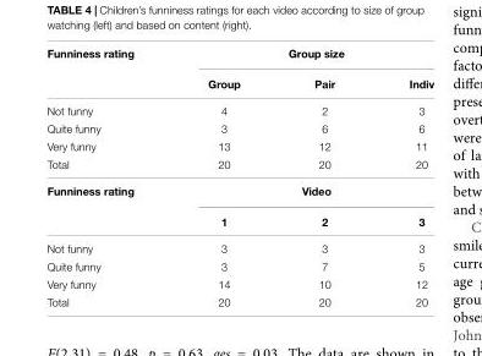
<table><thead><tr><td rowspan="2">Funniness rating</td><td colspan="3">Group size</td></tr><tr><td>Group</td><td>Pair</td><td>Indiv</td></tr></thead><tbody><tr><td>Not funny</td><td>4</td><td>2</td><td>3</td></tr><tr><td>Quite funny</td><td>3</td><td>6</td><td>6</td></tr><tr><td>Very funny</td><td>13</td><td>12</td><td>11</td></tr><tr><td>Total</td><td>20</td><td>20</td><td>20</td></tr><tr><td rowspan="2">Funniness rating</td><td colspan="3">Video</td></tr><tr><td>1</td><td>2</td><td>3</td></tr><tr><td>Not funny</td><td>3</td><td>3</td><td>3</td></tr><tr><td>Quite funny</td><td>3</td><td>7</td><td>5</td></tr><tr><td>Very funny</td><td>14</td><td>10</td><td>12</td></tr><tr><td>Total</td><td>20</td><td>20</td><td>20</td></tr></tbody></table>